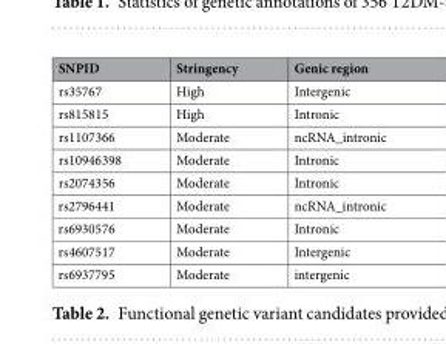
<table><thead><tr><td>SNPID</td><td>Stringency</td><td>Genic region</td></tr></thead><tbody><tr><td>rs35767</td><td>High</td><td>Intergenic</td></tr><tr><td>rs815815</td><td>High</td><td>Intronic</td></tr><tr><td>rs1107366</td><td>Moderate</td><td>ncRNA_intronic</td></tr><tr><td>rs10946398</td><td>Moderate</td><td>Intronic</td></tr><tr><td>rs2074356</td><td>Moderate</td><td>Intronic</td></tr><tr><td>rs2796441</td><td>Moderate</td><td>ncRNA_intronic</td></tr><tr><td>rs6930576</td><td>Moderate</td><td>Intronic</td></tr><tr><td>rs4607517</td><td>Moderate</td><td>Intergenic</td></tr><tr><td>rs6937795</td><td>Moderate</td><td>intergenic</td></tr></tbody></table>